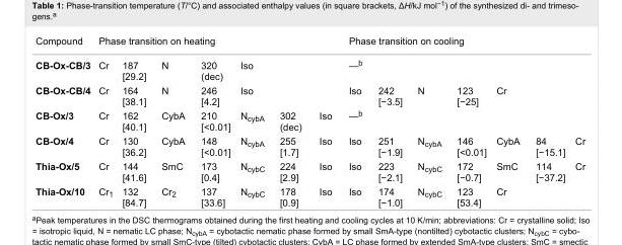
<table><tbody><tr><td>Compound</td><td colspan="7">Phase transition on heating</td><td colspan="7">Phase transition on cooling</td></tr><tr><td>CB-Ox-CB/3</td><td>Cr</td><td>187 [29.2]</td><td>N</td><td>320 (dec)</td><td>Iso</td><td></td><td></td><td colspan="7">—<sup>b</sup></td></tr><tr><td>CB-Ox-CB/4</td><td>Cr</td><td>164 [38.1]</td><td>N</td><td>246 [4.2]</td><td>Iso</td><td></td><td></td><td>Iso</td><td>242 [−3.5]</td><td>N</td><td>123 [−25]</td><td>Cr</td><td></td><td></td></tr><tr><td>CB-Ox/3</td><td>Cr</td><td>162 [40.1]</td><td>CybA</td><td>210 [&lt;0.01]</td><td>N<sub>cybA</sub></td><td>302 (dec)</td><td>Iso</td><td colspan="7">—<sup>b</sup></td></tr><tr><td>CB-Ox/4</td><td>Cr</td><td>130 [36.2]</td><td>CybA</td><td>148 [&lt;0.01]</td><td>N<sub>cybA</sub></td><td>255 [1.7]</td><td>Iso</td><td>Iso</td><td>251 [−1.9]</td><td>N<sub>cybA</sub></td><td>146 [&lt;0.01]</td><td>CybA</td><td>84 [−15.1]</td><td>Cr</td></tr><tr><td>Thia-Ox/5</td><td>Cr</td><td>144 [41.6]</td><td>SmC</td><td>173 [0.4]</td><td>N<sub>cybC</sub></td><td>224 [2.9]</td><td>Iso</td><td>Iso</td><td>223 [−2.1]</td><td>N<sub>cybC</sub></td><td>172 [−0.7]</td><td>SmC</td><td>114 [−37.2]</td><td>Cr</td></tr><tr><td>Thia-Ox/10</td><td>Cr<sub>1</sub></td><td>132 [84.7]</td><td>Cr<sub>2</sub></td><td>137 [33.6]</td><td>N<sub>cybC</sub></td><td>178 [0.9]</td><td>Iso</td><td>Iso</td><td>174 [−1.0]</td><td>N<sub>cybC</sub></td><td>123 [53.4]</td><td>Cr</td><td></td><td></td></tr></tbody></table>